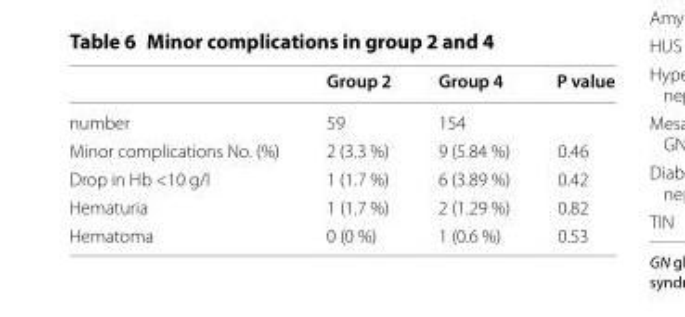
<table><thead><tr><td></td><td>Group 2</td><td>Group 4</td><td>P value</td></tr></thead><tbody><tr><td>number</td><td>59</td><td>154</td><td></td></tr><tr><td>Minor complications No. (%)</td><td>2 (3.3 %)</td><td>9 (5.84 %)</td><td>0.46</td></tr><tr><td>Drop in Hb &lt;10 g/l</td><td>1 (1.7 %)</td><td>6 (3.89 %)</td><td>0.42</td></tr><tr><td>Hematuria</td><td>1 (1.7 %)</td><td>2 (1.29 %)</td><td>0.82</td></tr><tr><td>Hematoma</td><td>0 (0 %)</td><td>1 (0.6 %)</td><td>0.53</td></tr></tbody></table>